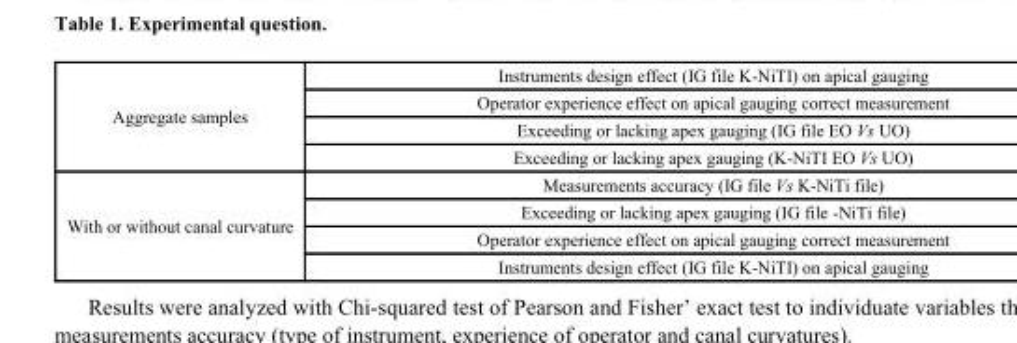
<table><tbody><tr><td rowspan="4">Aggregate samples</td><td>Instruments design effect (IG file K-NiTI) on apical gauging</td></tr><tr><td>Operator experience effect on apical gauging correct measurement</td></tr><tr><td>Exceeding or lacking apex gauging (IG file EO Vs UO)</td></tr><tr><td>Exceeding or lacking apex gauging (K-NiTI EO Vs UO)</td></tr><tr><td rowspan="4">With or without canal curvature</td><td>Measurements accuracy (IG file Vs K-NiTi file)</td></tr><tr><td>Exceeding or lacking apex gauging (IG file -NiTi file)</td></tr><tr><td>Operator experience effect on apical gauging correct measurement</td></tr><tr><td>Instruments design effect (IG file K-NiTI) on apical gauging</td></tr></tbody></table>